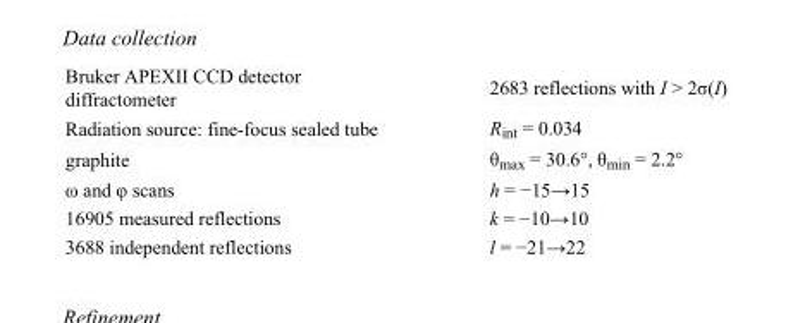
<table><tbody><tr><td>Bruker APEXII CCD detector diffractometer</td><td>2683 reflections with I &gt; 2σ(I)</td></tr><tr><td>Radiation source: fine-focus sealed tube</td><td>R<sub>int</sub> = 0.034</td></tr><tr><td>graphite</td><td>θ<sub>max</sub> = 30.6°, θ<sub>min</sub> = 2.2°</td></tr><tr><td>ω and φ scans</td><td>h = −15→15</td></tr><tr><td>16905 measured reflections</td><td>k = −10→10</td></tr><tr><td>3688 independent reflections</td><td>l = −21→22</td></tr></tbody></table>